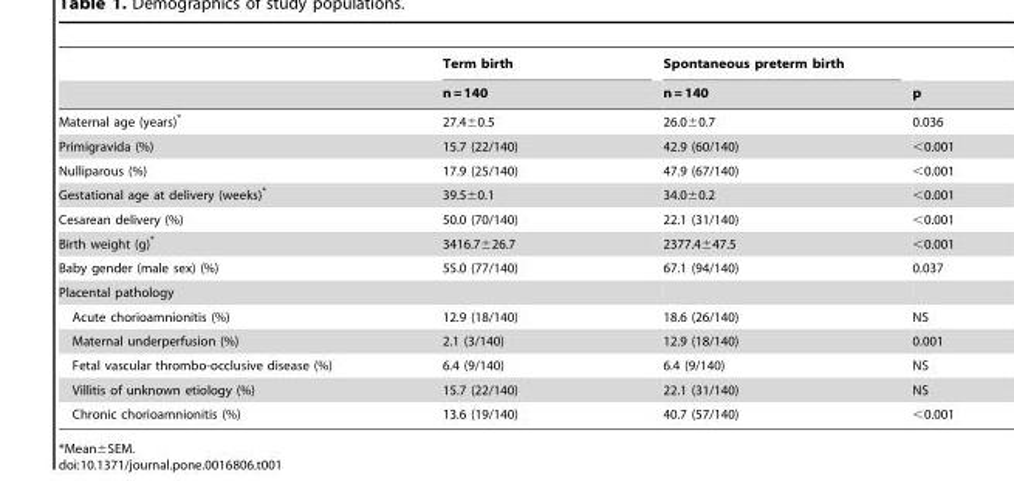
<table><thead><tr><td rowspan="2"></td><td rowspan="2">Term birth n = 140</td><td rowspan="2">Spontaneous preterm birth n = 140</td><td rowspan="2">p</td></tr><tr></tr></thead><tbody><tr><td>Maternal age (years)*</td><td>27.4±0.5</td><td>26.0±0.7</td><td>0.036</td></tr><tr><td>Primigravida (%)</td><td>15.7 (22/140)</td><td>42.9 (60/140)</td><td>&lt;0.001</td></tr><tr><td>Nulliparous (%)</td><td>17.9 (25/140)</td><td>47.9 (67/140)</td><td>&lt;0.001</td></tr><tr><td>Gestational age at delivery (weeks)*</td><td>39.5±0.1</td><td>34.0±0.2</td><td>&lt;0.001</td></tr><tr><td>Cesarean delivery (%)</td><td>50.0 (70/140)</td><td>22.1 (31/140)</td><td>&lt;0.001</td></tr><tr><td>Birth weight (g)*</td><td>3416.7±26.7</td><td>2377.4±47.5</td><td>&lt;0.001</td></tr><tr><td>Baby gender (male sex) (%)</td><td>55.0 (77/140)</td><td>67.1 (94/140)</td><td>0.037</td></tr><tr><td colspan="4">Placental pathology</td></tr><tr><td>Acute chorioamnionitis (%)</td><td>12.9 (18/140)</td><td>18.6 (26/140)</td><td>NS</td></tr><tr><td>Maternal underperfusion (%)</td><td>2.1 (3/140)</td><td>12.9 (18/140)</td><td>0.001</td></tr><tr><td>Fetal vascular thrombo-occlusive disease (%)</td><td>6.4 (9/140)</td><td>6.4 (9/140)</td><td>NS</td></tr><tr><td>Villitis of unknown etiology (%)</td><td>15.7 (22/140)</td><td>22.1 (31/140)</td><td>NS</td></tr><tr><td>Chronic chorioamnionitis (%)</td><td>13.6 (19/140)</td><td>40.7 (57/140)</td><td>&lt;0.001</td></tr></tbody></table>